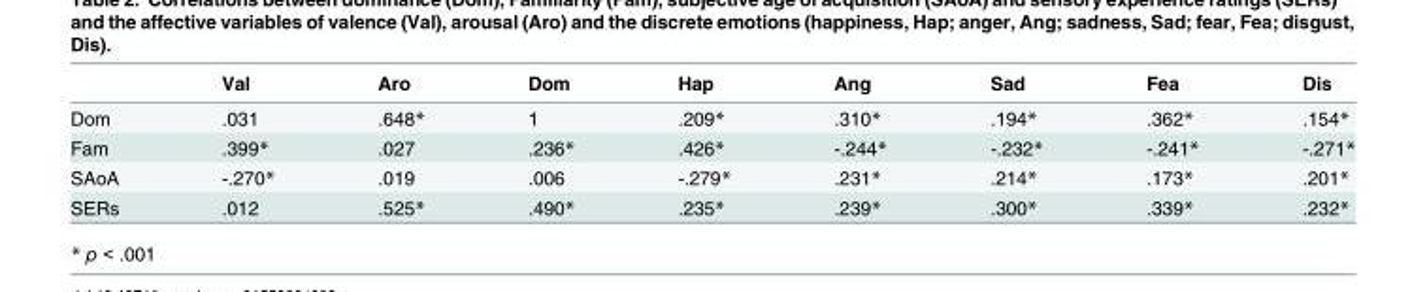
<table><thead><tr><td></td><td>Val</td><td>Aro</td><td>Dom</td><td>Hap</td><td>Ang</td><td>Sad</td><td>Fea</td><td>Dis</td></tr></thead><tbody><tr><td>Dom</td><td>.031</td><td>.648*</td><td>1</td><td>.209*</td><td>.310*</td><td>.194*</td><td>.362*</td><td>.154*</td></tr><tr><td>Fam</td><td>.399*</td><td>.027</td><td>.236*</td><td>.426*</td><td>-.244*</td><td>-.232*</td><td>-.241*</td><td>-.271*</td></tr><tr><td>SAoA</td><td>-.270*</td><td>.019</td><td>.006</td><td>-.279*</td><td>.231*</td><td>.214*</td><td>.173*</td><td>.201*</td></tr><tr><td>SERs</td><td>.012</td><td>.525*</td><td>.490*</td><td>.235*</td><td>.239*</td><td>.300*</td><td>.339*</td><td>.232*</td></tr></tbody></table>